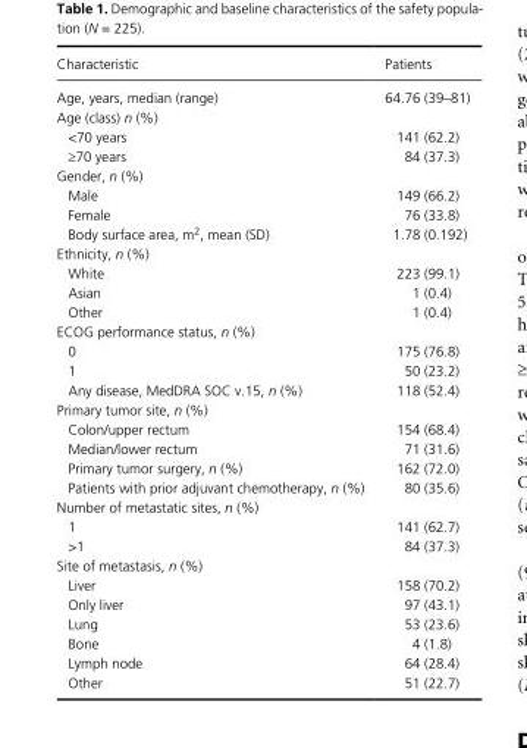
<table><thead><tr><td>Characteristic</td><td>Patients</td></tr></thead><tbody><tr><td>Age, years, median (range)</td><td>64.76 (39–81)</td></tr><tr><td colspan="2">Age (class) n (%)</td></tr><tr><td>&lt;70 years</td><td>141 (62.2)</td></tr><tr><td>≥70 years</td><td>84 (37.3)</td></tr><tr><td colspan="2">Gender, n (%)</td></tr><tr><td>Male</td><td>149 (66.2)</td></tr><tr><td>Female</td><td>76 (33.8)</td></tr><tr><td>Body surface area, m<sup>2</sup>, mean (SD)</td><td>1.78 (0.192)</td></tr><tr><td colspan="2">Ethnicity, n (%)</td></tr><tr><td>White</td><td>223 (99.1)</td></tr><tr><td>Asian</td><td>1 (0.4)</td></tr><tr><td>Other</td><td>1 (0.4)</td></tr><tr><td colspan="2">ECOG performance status, n (%)</td></tr><tr><td>0</td><td>175 (76.8)</td></tr><tr><td>1</td><td>50 (23.2)</td></tr><tr><td>Any disease, MedDRA SOC v.15, n (%)</td><td>118 (52.4)</td></tr><tr><td colspan="2">Primary tumor site, n (%)</td></tr><tr><td>Colon/upper rectum</td><td>154 (68.4)</td></tr><tr><td>Median/lower rectum</td><td>71 (31.6)</td></tr><tr><td>Primary tumor surgery, n (%)</td><td>162 (72.0)</td></tr><tr><td>Patients with prior adjuvant chemotherapy, n (%)</td><td>80 (35.6)</td></tr><tr><td colspan="2">Number of metastatic sites, n (%)</td></tr><tr><td>1</td><td>141 (62.7)</td></tr><tr><td>&gt;1</td><td>84 (37.3)</td></tr><tr><td colspan="2">Site of metastasis, n (%)</td></tr><tr><td>Liver</td><td>158 (70.2)</td></tr><tr><td>Only liver</td><td>97 (43.1)</td></tr><tr><td>Lung</td><td>53 (23.6)</td></tr><tr><td>Bone</td><td>4 (1.8)</td></tr><tr><td>Lymph node</td><td>64 (28.4)</td></tr><tr><td>Other</td><td>51 (22.7)</td></tr></tbody></table>